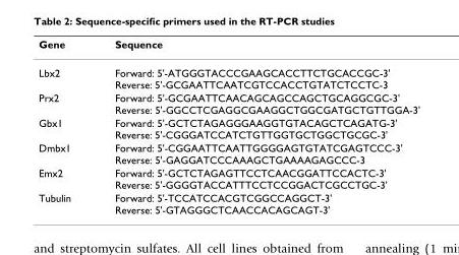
<table><thead><tr><td>Gene</td><td>Sequence</td></tr></thead><tbody><tr><td>Lbx2</td><td>Forward: 5&#x27;-ATGGGTACCCGAAGCACCTTCTGCACCGC-3&#x27; Reverse: 5&#x27;-GCGAATTCAATCGTCCACCTGTATCTCCTC-3</td></tr><tr><td>Prx2</td><td>Forward: 5&#x27;-GCGAATTCAACAGCAGCCAGCTGCAGGCGC-3&#x27; Reverse: 5&#x27;-GGCCTCGAGGCGAAGGCTGGCGATGCTGTTGGA-3&#x27;</td></tr><tr><td>Gbx1</td><td>Forward: 5&#x27;-GCTCTAGAGGGAAGGTGTACAGCTCAGATG-3&#x27; Reverse: 5&#x27;-CGGGATCCATCTGTTGGTGCTGGCTGCGC-3&#x27;</td></tr><tr><td>Dmbx1</td><td>Forward: 5&#x27;-CGGAATTCAATTGGGGAGTGTATCGAGTCCC-3&#x27; Reverse: 5&#x27;-GAGGATCCCAAAGCTGAAAAGAGCCC-3</td></tr><tr><td>Emx2</td><td>Forward: 5&#x27;-GCTCTAGAGTTCCTCAACGGATTCCACTC-3&#x27; Reverse: 5&#x27;-GGGGTACCATTTCCTCCGGACTCGCCTGC-3&#x27;</td></tr><tr><td>Tubulin</td><td>Forward: 5&#x27;-TCCATCCACGTCGGCCAGGCT-3&#x27; Reverse: 5&#x27;-GTAGGGCTCAACCACAGCAGT-3&#x27;</td></tr></tbody></table>